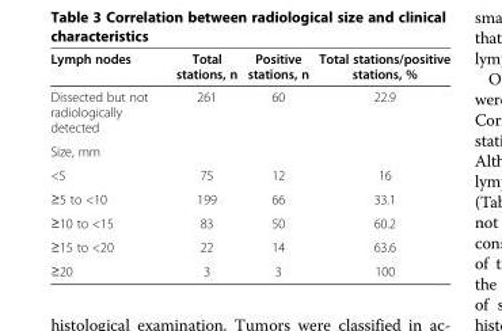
<table><thead><tr><td>Lymph nodes</td><td>Total stations, n</td><td>Positive stations, n</td><td>Total stations/positive stations, %</td></tr></thead><tbody><tr><td>Dissected but not radiologically detected</td><td>261</td><td>60</td><td>22.9</td></tr><tr><td colspan="4">Size, mm</td></tr><tr><td>&lt;5</td><td>75</td><td>12</td><td>16</td></tr><tr><td>≥5 to &lt;10</td><td>199</td><td>66</td><td>33.1</td></tr><tr><td>≥10 to &lt;15</td><td>83</td><td>50</td><td>60.2</td></tr><tr><td>≥15 to &lt;20</td><td>22</td><td>14</td><td>63.6</td></tr><tr><td>≥20</td><td>3</td><td>3</td><td>100</td></tr></tbody></table>